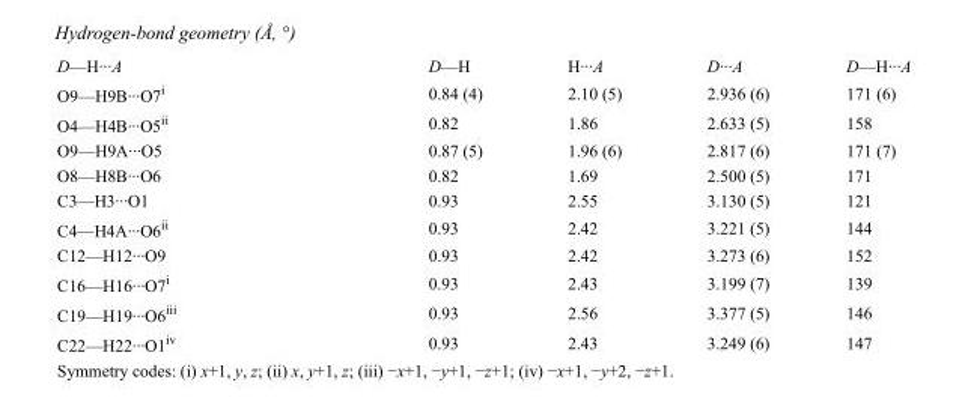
<table><tbody><tr><td>D—H···A</td><td>D—H</td><td>H···A</td><td>D···A</td><td>D—H···A</td></tr><tr><td>O9—H9B···O7<sup>i</sup></td><td>0.84 (4)</td><td>2.10 (5)</td><td>2.936 (6)</td><td>171 (6)</td></tr><tr><td>O4—H4B···O5<sup>ii</sup></td><td>0.82</td><td>1.86</td><td>2.633 (5)</td><td>158</td></tr><tr><td>O9—H9A···O5</td><td>0.87 (5)</td><td>1.96 (6)</td><td>2.817 (6)</td><td>171 (7)</td></tr><tr><td>O8—H8B···O6</td><td>0.82</td><td>1.69</td><td>2.500 (5)</td><td>171</td></tr><tr><td>C3—H3···O1</td><td>0.93</td><td>2.55</td><td>3.130 (5)</td><td>121</td></tr><tr><td>C4—H4A···O6<sup>ii</sup></td><td>0.93</td><td>2.42</td><td>3.221 (5)</td><td>144</td></tr><tr><td>C12—H12···O9</td><td>0.93</td><td>2.42</td><td>3.273 (6)</td><td>152</td></tr><tr><td>C16—H16···O7<sup>i</sup></td><td>0.93</td><td>2.43</td><td>3.199 (7)</td><td>139</td></tr><tr><td>C19—H19···O6<sup>iii</sup></td><td>0.93</td><td>2.56</td><td>3.377 (5)</td><td>146</td></tr><tr><td>C22—H22···O1<sup>iv</sup></td><td>0.93</td><td>2.43</td><td>3.249 (6)</td><td>147</td></tr></tbody></table>